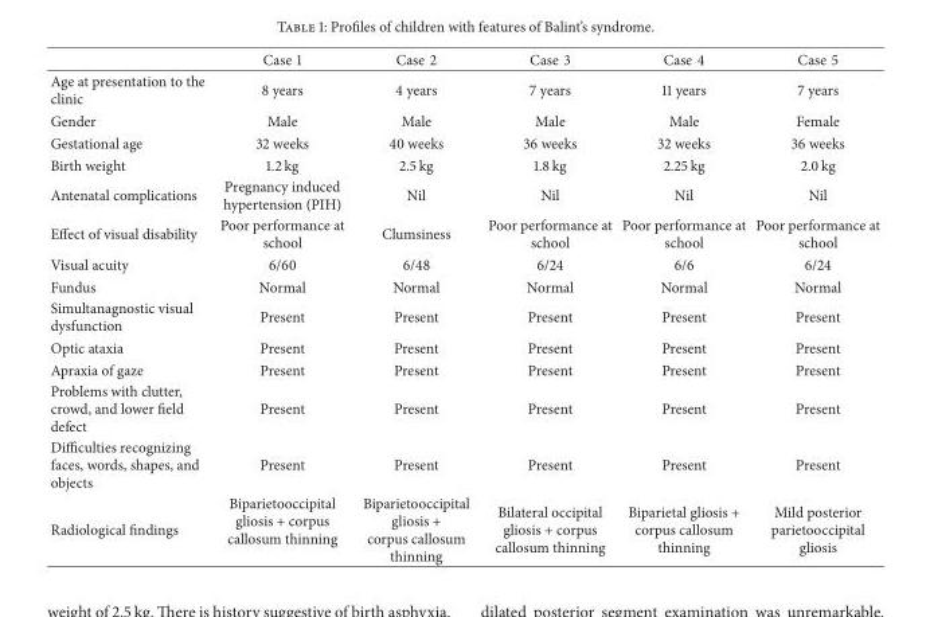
<table><thead><tr><td></td><td>Case 1</td><td>Case 2</td><td>Case 3</td><td>Case 4</td><td>Case 5</td></tr></thead><tbody><tr><td>Age at presentation to the clinic</td><td>8 years</td><td>4 years</td><td>7 years</td><td>11 years</td><td>7 years</td></tr><tr><td>Gender</td><td>Male</td><td>Male</td><td>Male</td><td>Male</td><td>Female</td></tr><tr><td>Gestational age</td><td>32 weeks</td><td>40 weeks</td><td>36 weeks</td><td>32 weeks</td><td>36 weeks</td></tr><tr><td>Birth weight</td><td>1.2 kg</td><td>2.5 kg</td><td>1.8 kg</td><td>2.25 kg</td><td>2.0 kg</td></tr><tr><td>Antenatal complications</td><td>Pregnancy induced hypertension (PIH)</td><td>Nil</td><td>Nil</td><td>Nil</td><td>Nil</td></tr><tr><td>Effect of visual disability</td><td>Poor performance at school</td><td>Clumsiness</td><td>Poor performance at school</td><td>Poor performance at school</td><td>Poor performance at school</td></tr><tr><td>Visual acuity</td><td>6/60</td><td>6/48</td><td>6/24</td><td>6/6</td><td>6/24</td></tr><tr><td>Fundus</td><td>Normal</td><td>Normal</td><td>Normal</td><td>Normal</td><td>Normal</td></tr><tr><td>Simultanagnostic visual dysfunction</td><td>Present</td><td>Present</td><td>Present</td><td>Present</td><td>Present</td></tr><tr><td>Optic ataxia</td><td>Present</td><td>Present</td><td>Present</td><td>Present</td><td>Present</td></tr><tr><td>Apraxia of gaze</td><td>Present</td><td>Present</td><td>Present</td><td>Present</td><td>Present</td></tr><tr><td>Problems with clutter, crowd, and lower field defect</td><td>Present</td><td>Present</td><td>Present</td><td>Present</td><td>Present</td></tr><tr><td>Difficulties recognizing faces, words, shapes, and objects</td><td>Present</td><td>Present</td><td>Present</td><td>Present</td><td>Present</td></tr><tr><td>Radiological findings</td><td>Biparietooccipital gliosis + corpus callosum thinning</td><td>Biparietooccipital gliosis + corpus callosum thinning</td><td>Bilateral occipital gliosis + corpus callosum thinning</td><td>Biparietal gliosis + corpus callosum thinning</td><td>Mild posterior parietooccipital gliosis</td></tr></tbody></table>